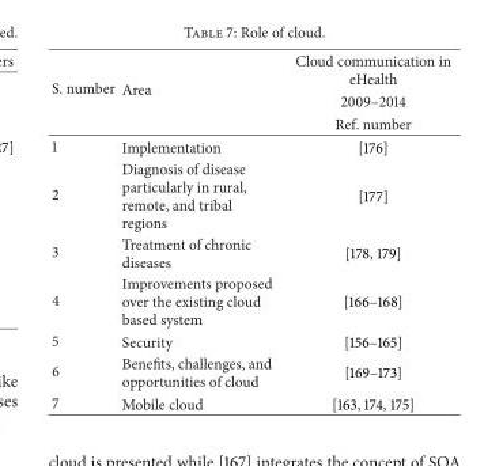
<table><thead><tr><td rowspan="3">S. number</td><td rowspan="3">Area</td><td rowspan="3">Cloud communication in eHealth 2009–2014 Ref. number</td></tr><tr></tr><tr></tr></thead><tbody><tr><td>1</td><td>Implementation</td><td>[176]</td></tr><tr><td>2</td><td>Diagnosis of disease particularly in rural, remote, and tribal regions</td><td>[177]</td></tr><tr><td>3</td><td>Treatment of chronic diseases</td><td>[178, 179]</td></tr><tr><td>4</td><td>Improvements proposed over the existing cloud based system</td><td>[166–168]</td></tr><tr><td>5</td><td>Security</td><td>[156–165]</td></tr><tr><td>6</td><td>Benefits, challenges, and opportunities of cloud</td><td>[169–173]</td></tr><tr><td>7</td><td>Mobile cloud</td><td>[163, 174, 175]</td></tr></tbody></table>